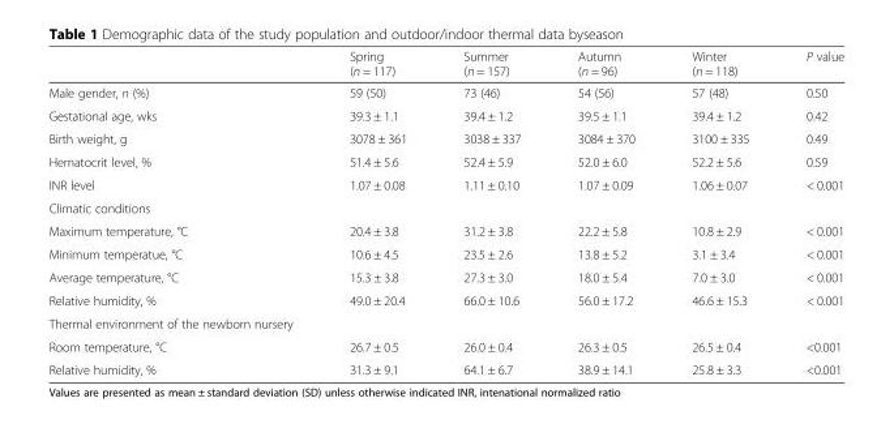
<table><thead><tr><td></td><td>Spring (n = 117)</td><td>Summer (n = 157)</td><td>Autumn (n = 96)</td><td>Winter (n = 118)</td><td>P value</td></tr></thead><tbody><tr><td>Male gender, n (%)</td><td>59 (50)</td><td>73 (46)</td><td>54 (56)</td><td>57 (48)</td><td>0.50</td></tr><tr><td>Gestational age, wks</td><td>39.3 ± 1.1</td><td>39.4 ± 1.2</td><td>39.5 ± 1.1</td><td>39.4 ± 1.2</td><td>0.42</td></tr><tr><td>Birth weight, g</td><td>3078 ± 361</td><td>3038 ± 337</td><td>3084 ± 370</td><td>3100 ± 335</td><td>0.49</td></tr><tr><td>Hematocrit level, %</td><td>51.4 ± 5.6</td><td>52.4 ± 5.9</td><td>52.0 ± 6.0</td><td>52.2 ± 5.6</td><td>0.59</td></tr><tr><td>INR level</td><td>1.07 ± 0.08</td><td>1.11 ± 0.10</td><td>1.07 ± 0.09</td><td>1.06 ± 0.07</td><td>&lt; 0.001</td></tr><tr><td colspan="6">Climatic conditions</td></tr><tr><td>Maximum temperature, °C</td><td>20.4 ± 3.8</td><td>31.2 ± 3.8</td><td>22.2 ± 5.8</td><td>10.8 ± 2.9</td><td>&lt; 0.001</td></tr><tr><td>Minimum temperatue, °C</td><td>10.6 ± 4.5</td><td>23.5 ± 2.6</td><td>13.8 ± 5.2</td><td>3.1 ± 3.4</td><td>&lt; 0.001</td></tr><tr><td>Average temperature, °C</td><td>15.3 ± 3.8</td><td>27.3 ± 3.0</td><td>18.0 ± 5.4</td><td>7.0 ± 3.0</td><td>&lt; 0.001</td></tr><tr><td>Relative humidity, %</td><td>49.0 ± 20.4</td><td>66.0 ± 10.6</td><td>56.0 ± 17.2</td><td>46.6 ± 15.3</td><td>&lt; 0.001</td></tr><tr><td colspan="6">Thermal environment of the newborn nursery</td></tr><tr><td>Room temperature, °C</td><td>26.7 ± 0.5</td><td>26.0 ± 0.4</td><td>26.3 ± 0.5</td><td>26.5 ± 0.4</td><td>&lt;0.001</td></tr><tr><td>Relative humidity, %</td><td>31.3 ± 9.1</td><td>64.1 ± 6.7</td><td>38.9 ± 14.1</td><td>25.8 ± 3.3</td><td>&lt;0.001</td></tr></tbody></table>